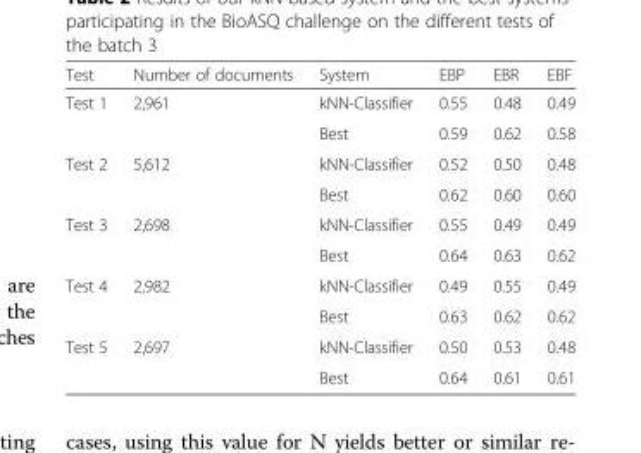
<table><thead><tr><td>Test</td><td>Number of documents</td><td>System</td><td>EBP</td><td>EBR</td><td>EBF</td></tr></thead><tbody><tr><td rowspan="2">Test 1</td><td rowspan="2">2,961</td><td>kNN-Classifier</td><td>0.55</td><td>0.48</td><td>0.49</td></tr><tr><td>Best</td><td>0.59</td><td>0.62</td><td>0.58</td></tr><tr><td rowspan="2">Test 2</td><td rowspan="2">5,612</td><td>kNN-Classifier</td><td>0.52</td><td>0.50</td><td>0.48</td></tr><tr><td>Best</td><td>0.62</td><td>0.60</td><td>0.60</td></tr><tr><td rowspan="2">Test 3</td><td rowspan="2">2,698</td><td>kNN-Classifier</td><td>0.55</td><td>0.49</td><td>0.49</td></tr><tr><td>Best</td><td>0.64</td><td>0.63</td><td>0.62</td></tr><tr><td rowspan="2">Test 4</td><td rowspan="2">2,982</td><td>kNN-Classifier</td><td>0.49</td><td>0.55</td><td>0.49</td></tr><tr><td>Best</td><td>0.63</td><td>0.62</td><td>0.62</td></tr><tr><td rowspan="2">Test 5</td><td rowspan="2">2,697</td><td>kNN-Classifier</td><td>0.50</td><td>0.53</td><td>0.48</td></tr><tr><td>Best</td><td>0.64</td><td>0.61</td><td>0.61</td></tr></tbody></table>